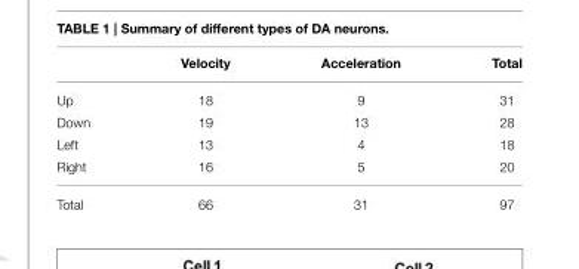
<table><thead><tr><td></td><td>Velocity</td><td>Acceleration</td><td>Total</td></tr></thead><tbody><tr><td>Up</td><td>18</td><td>9</td><td>31</td></tr><tr><td>Down</td><td>19</td><td>13</td><td>28</td></tr><tr><td>Left</td><td>13</td><td>4</td><td>18</td></tr><tr><td>Right</td><td>16</td><td>5</td><td>20</td></tr><tr><td>Total</td><td>66</td><td>31</td><td>97</td></tr></tbody></table>